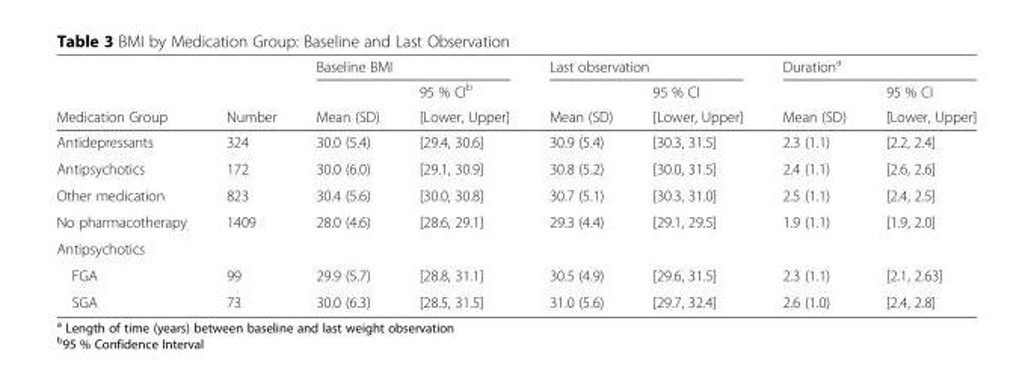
<table><thead><tr><td rowspan="3">Medication Group</td><td rowspan="3">Number</td><td colspan="2">Baseline BMI</td><td colspan="2">Last observation</td><td colspan="2">Duration<sup>a</sup></td></tr><tr><td rowspan="2">Mean (SD)</td><td rowspan="2">95 % CI<sup>b</sup> [Lower, Upper]</td><td rowspan="2">Mean (SD)</td><td rowspan="2">95 % CI [Lower, Upper]</td><td rowspan="2">Mean (SD)</td><td rowspan="2">95 % CI [Lower, Upper]</td></tr><tr></tr></thead><tbody><tr><td>Antidepressants</td><td>324</td><td>30.0 (5.4)</td><td>[29.4, 30.6]</td><td>30.9 (5.4)</td><td>[30.3, 31.5]</td><td>2.3 (1.1)</td><td>[2.2, 2.4]</td></tr><tr><td>Antipsychotics</td><td>172</td><td>30.0 (6.0)</td><td>[29.1, 30.9]</td><td>30.8 (5.2)</td><td>[30.0, 31.5]</td><td>2.4 (1.1)</td><td>[2.6, 2.6]</td></tr><tr><td>Other medication</td><td>823</td><td>30.4 (5.6)</td><td>[30.0, 30.8]</td><td>30.7 (5.1)</td><td>[30.3, 31.0]</td><td>2.5 (1.1)</td><td>[2.4, 2.5]</td></tr><tr><td>No pharmacotherapy</td><td>1409</td><td>28.0 (4.6)</td><td>[28.6, 29.1]</td><td>29.3 (4.4)</td><td>[29.1, 29.5]</td><td>1.9 (1.1)</td><td>[1.9, 2.0]</td></tr><tr><td colspan="8">Antipsychotics</td></tr><tr><td>FGA</td><td>99</td><td>29.9 (5.7)</td><td>[28.8, 31.1]</td><td>30.5 (4.9)</td><td>[29.6, 31.5]</td><td>2.3 (1.1)</td><td>[2.1, 2.63]</td></tr><tr><td>SGA</td><td>73</td><td>30.0 (6.3)</td><td>[28.5, 31.5]</td><td>31.0 (5.6)</td><td>[29.7, 32.4]</td><td>2.6 (1.0)</td><td>[2.4, 2.8]</td></tr></tbody></table>